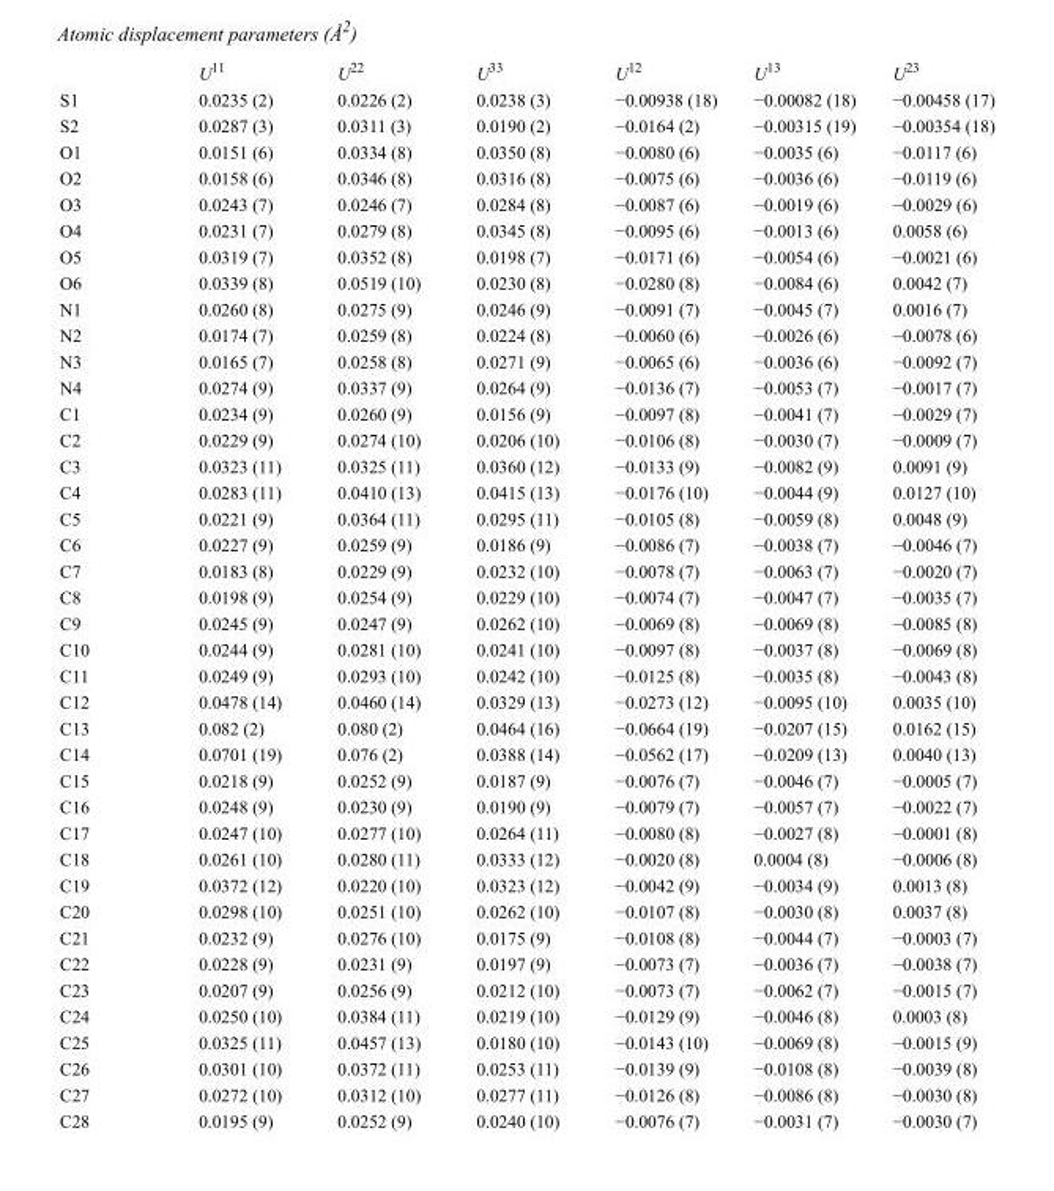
<table><thead><tr><td></td><td>U<sup>11</sup></td><td>U<sup>22</sup></td><td>U<sup>33</sup></td><td>U<sup>12</sup></td><td>U<sup>13</sup></td><td>U<sup>23</sup></td></tr></thead><tbody><tr><td>S1</td><td>0.0235 (2)</td><td>0.0226 (2)</td><td>0.0238 (3)</td><td>−0.00938 (18)</td><td>−0.00082 (18)</td><td>−0.00458 (17)</td></tr><tr><td>S2</td><td>0.0287 (3)</td><td>0.0311 (3)</td><td>0.0190 (2)</td><td>−0.0164 (2)</td><td>−0.00315 (19)</td><td>−0.00354 (18)</td></tr><tr><td>O1</td><td>0.0151 (6)</td><td>0.0334 (8)</td><td>0.0350 (8)</td><td>−0.0080 (6)</td><td>−0.0035 (6)</td><td>−0.0117 (6)</td></tr><tr><td>O2</td><td>0.0158 (6)</td><td>0.0346 (8)</td><td>0.0316 (8)</td><td>−0.0075 (6)</td><td>−0.0036 (6)</td><td>−0.0119 (6)</td></tr><tr><td>O3</td><td>0.0243 (7)</td><td>0.0246 (7)</td><td>0.0284 (8)</td><td>−0.0087 (6)</td><td>−0.0019 (6)</td><td>−0.0029 (6)</td></tr><tr><td>O4</td><td>0.0231 (7)</td><td>0.0279 (8)</td><td>0.0345 (8)</td><td>−0.0095 (6)</td><td>−0.0013 (6)</td><td>0.0058 (6)</td></tr><tr><td>O5</td><td>0.0319 (7)</td><td>0.0352 (8)</td><td>0.0198 (7)</td><td>−0.0171 (6)</td><td>−0.0054 (6)</td><td>−0.0021 (6)</td></tr><tr><td>O6</td><td>0.0339 (8)</td><td>0.0519 (10)</td><td>0.0230 (8)</td><td>−0.0280 (8)</td><td>−0.0084 (6)</td><td>0.0042 (7)</td></tr><tr><td>N1</td><td>0.0260 (8)</td><td>0.0275 (9)</td><td>0.0246 (9)</td><td>−0.0091 (7)</td><td>−0.0045 (7)</td><td>0.0016 (7)</td></tr><tr><td>N2</td><td>0.0174 (7)</td><td>0.0259 (8)</td><td>0.0224 (8)</td><td>−0.0060 (6)</td><td>−0.0026 (6)</td><td>−0.0078 (6)</td></tr><tr><td>N3</td><td>0.0165 (7)</td><td>0.0258 (8)</td><td>0.0271 (9)</td><td>−0.0065 (6)</td><td>−0.0036 (6)</td><td>−0.0092 (7)</td></tr><tr><td>N4</td><td>0.0274 (9)</td><td>0.0337 (9)</td><td>0.0264 (9)</td><td>−0.0136 (7)</td><td>−0.0053 (7)</td><td>−0.0017 (7)</td></tr><tr><td>C1</td><td>0.0234 (9)</td><td>0.0260 (9)</td><td>0.0156 (9)</td><td>−0.0097 (8)</td><td>−0.0041 (7)</td><td>−0.0029 (7)</td></tr><tr><td>C2</td><td>0.0229 (9)</td><td>0.0274 (10)</td><td>0.0206 (10)</td><td>−0.0106 (8)</td><td>−0.0030 (7)</td><td>−0.0009 (7)</td></tr><tr><td>C3</td><td>0.0323 (11)</td><td>0.0325 (11)</td><td>0.0360 (12)</td><td>−0.0133 (9)</td><td>−0.0082 (9)</td><td>0.0091 (9)</td></tr><tr><td>C4</td><td>0.0283 (11)</td><td>0.0410 (13)</td><td>0.0415 (13)</td><td>−0.0176 (10)</td><td>−0.0044 (9)</td><td>0.0127 (10)</td></tr><tr><td>C5</td><td>0.0221 (9)</td><td>0.0364 (11)</td><td>0.0295 (11)</td><td>−0.0105 (8)</td><td>−0.0059 (8)</td><td>0.0048 (9)</td></tr><tr><td>C6</td><td>0.0227 (9)</td><td>0.0259 (9)</td><td>0.0186 (9)</td><td>−0.0086 (7)</td><td>−0.0038 (7)</td><td>−0.0046 (7)</td></tr><tr><td>C7</td><td>0.0183 (8)</td><td>0.0229 (9)</td><td>0.0232 (10)</td><td>−0.0078 (7)</td><td>−0.0063 (7)</td><td>−0.0020 (7)</td></tr><tr><td>C8</td><td>0.0198 (9)</td><td>0.0254 (9)</td><td>0.0229 (10)</td><td>−0.0074 (7)</td><td>−0.0047 (7)</td><td>−0.0035 (7)</td></tr><tr><td>C9</td><td>0.0245 (9)</td><td>0.0247 (9)</td><td>0.0262 (10)</td><td>−0.0069 (8)</td><td>−0.0069 (8)</td><td>−0.0085 (8)</td></tr><tr><td>C10</td><td>0.0244 (9)</td><td>0.0281 (10)</td><td>0.0241 (10)</td><td>−0.0097 (8)</td><td>−0.0037 (8)</td><td>−0.0069 (8)</td></tr><tr><td>C11</td><td>0.0249 (9)</td><td>0.0293 (10)</td><td>0.0242 (10)</td><td>−0.0125 (8)</td><td>−0.0035 (8)</td><td>−0.0043 (8)</td></tr><tr><td>C12</td><td>0.0478 (14)</td><td>0.0460 (14)</td><td>0.0329 (13)</td><td>−0.0273 (12)</td><td>−0.0095 (10)</td><td>0.0035 (10)</td></tr><tr><td>C13</td><td>0.082 (2)</td><td>0.080 (2)</td><td>0.0464 (16)</td><td>−0.0664 (19)</td><td>−0.0207 (15)</td><td>0.0162 (15)</td></tr><tr><td>C14</td><td>0.0701 (19)</td><td>0.076 (2)</td><td>0.0388 (14)</td><td>−0.0562 (17)</td><td>−0.0209 (13)</td><td>0.0040 (13)</td></tr><tr><td>C15</td><td>0.0218 (9)</td><td>0.0252 (9)</td><td>0.0187 (9)</td><td>−0.0076 (7)</td><td>−0.0046 (7)</td><td>−0.0005 (7)</td></tr><tr><td>C16</td><td>0.0248 (9)</td><td>0.0230 (9)</td><td>0.0190 (9)</td><td>−0.0079 (7)</td><td>−0.0057 (7)</td><td>−0.0022 (7)</td></tr><tr><td>C17</td><td>0.0247 (10)</td><td>0.0277 (10)</td><td>0.0264 (11)</td><td>−0.0080 (8)</td><td>−0.0027 (8)</td><td>−0.0001 (8)</td></tr><tr><td>C18</td><td>0.0261 (10)</td><td>0.0280 (11)</td><td>0.0333 (12)</td><td>−0.0020 (8)</td><td>0.0004 (8)</td><td>−0.0006 (8)</td></tr><tr><td>C19</td><td>0.0372 (12)</td><td>0.0220 (10)</td><td>0.0323 (12)</td><td>−0.0042 (9)</td><td>−0.0034 (9)</td><td>0.0013 (8)</td></tr><tr><td>C20</td><td>0.0298 (10)</td><td>0.0251 (10)</td><td>0.0262 (10)</td><td>−0.0107 (8)</td><td>−0.0030 (8)</td><td>0.0037 (8)</td></tr><tr><td>C21</td><td>0.0232 (9)</td><td>0.0276 (10)</td><td>0.0175 (9)</td><td>−0.0108 (8)</td><td>−0.0044 (7)</td><td>−0.0003 (7)</td></tr><tr><td>C22</td><td>0.0228 (9)</td><td>0.0231 (9)</td><td>0.0197 (9)</td><td>−0.0073 (7)</td><td>−0.0036 (7)</td><td>−0.0038 (7)</td></tr><tr><td>C23</td><td>0.0207 (9)</td><td>0.0256 (9)</td><td>0.0212 (10)</td><td>−0.0073 (7)</td><td>−0.0062 (7)</td><td>−0.0015 (7)</td></tr><tr><td>C24</td><td>0.0250 (10)</td><td>0.0384 (11)</td><td>0.0219 (10)</td><td>−0.0129 (9)</td><td>−0.0046 (8)</td><td>0.0003 (8)</td></tr><tr><td>C25</td><td>0.0325 (11)</td><td>0.0457 (13)</td><td>0.0180 (10)</td><td>−0.0143 (10)</td><td>−0.0069 (8)</td><td>−0.0015 (9)</td></tr><tr><td>C26</td><td>0.0301 (10)</td><td>0.0372 (11)</td><td>0.0253 (11)</td><td>−0.0139 (9)</td><td>−0.0108 (8)</td><td>−0.0039 (8)</td></tr><tr><td>C27</td><td>0.0272 (10)</td><td>0.0312 (10)</td><td>0.0277 (11)</td><td>−0.0126 (8)</td><td>−0.0086 (8)</td><td>−0.0030 (8)</td></tr><tr><td>C28</td><td>0.0195 (9)</td><td>0.0252 (9)</td><td>0.0240 (10)</td><td>−0.0076 (7)</td><td>−0.0031 (7)</td><td>−0.0030 (7)</td></tr></tbody></table>